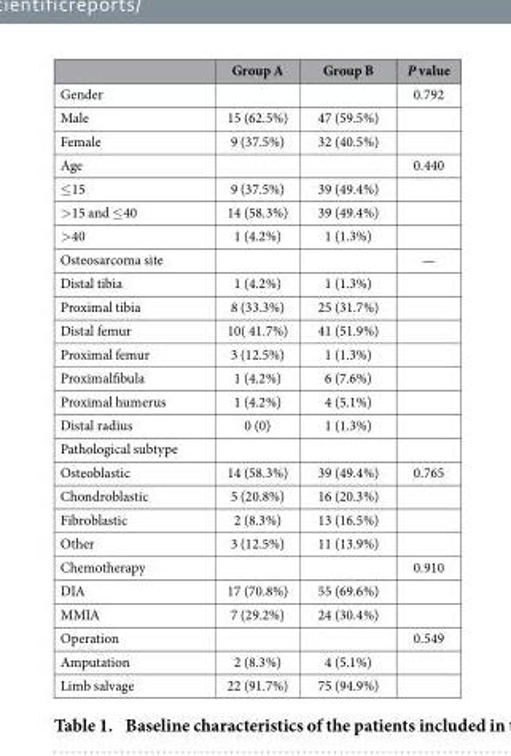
<table><thead><tr><td></td><td>Group A</td><td>Group B</td><td>P value</td></tr></thead><tbody><tr><td>Gender</td><td></td><td></td><td>0.792</td></tr><tr><td>Male</td><td>15 (62.5%)</td><td>47 (59.5%)</td><td></td></tr><tr><td>Female</td><td>9 (37.5%)</td><td>32 (40.5%)</td><td></td></tr><tr><td>Age</td><td></td><td></td><td>0.440</td></tr><tr><td>≤ 15</td><td>9 (37.5%)</td><td>39 (49.4%)</td><td></td></tr><tr><td>&gt; 15 and ≤ 40</td><td>14 (58.3%)</td><td>39 (49.4%)</td><td></td></tr><tr><td>&gt; 40</td><td>1 (4.2%)</td><td>1 (1.3%)</td><td></td></tr><tr><td>Osteosarcoma site</td><td></td><td></td><td>—</td></tr><tr><td>Distal tibia</td><td>1 (4.2%)</td><td>1 (1.3%)</td><td></td></tr><tr><td>Proximal tibia</td><td>8 (33.3%)</td><td>25 (31.7%)</td><td></td></tr><tr><td>Distal femur</td><td>10( 41.7%)</td><td>41 (51.9%)</td><td></td></tr><tr><td>Proximal femur</td><td>3 (12.5%)</td><td>1 (1.3%)</td><td></td></tr><tr><td>Proximalfibula</td><td>1 (4.2%)</td><td>6 (7.6%)</td><td></td></tr><tr><td>Proximal humerus</td><td>1 (4.2%)</td><td>4 (5.1%)</td><td></td></tr><tr><td>Distal radius</td><td>0 (0)</td><td>1 (1.3%)</td><td></td></tr><tr><td colspan="4">Pathological subtype</td></tr><tr><td>Osteoblastic</td><td>14 (58.3%)</td><td>39 (49.4%)</td><td>0.765</td></tr><tr><td>Chondroblastic</td><td>5 (20.8%)</td><td>16 (20.3%)</td><td></td></tr><tr><td>Fibroblastic</td><td>2 (8.3%)</td><td>13 (16.5%)</td><td></td></tr><tr><td>Other</td><td>3 (12.5%)</td><td>11 (13.9%)</td><td></td></tr><tr><td>Chemotherapy</td><td></td><td></td><td>0.910</td></tr><tr><td>DIA</td><td>17 (70.8%)</td><td>55 (69.6%)</td><td></td></tr><tr><td>MMIA</td><td>7 (29.2%)</td><td>24 (30.4%)</td><td></td></tr><tr><td>Operation</td><td></td><td></td><td>0.549</td></tr><tr><td>Amputation</td><td>2 (8.3%)</td><td>4 (5.1%)</td><td></td></tr><tr><td>Limb salvage</td><td>22 (91.7%)</td><td>75 (94.9%)</td><td></td></tr></tbody></table>